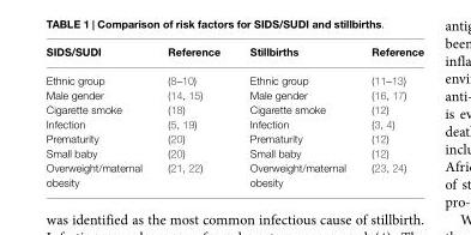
<table><thead><tr><td>SIDS/SUDI</td><td>Reference</td><td>Stillbirths</td><td>Reference</td></tr></thead><tbody><tr><td>Ethnic group</td><td>(8–10)</td><td>Ethnic group</td><td>(11–13)</td></tr><tr><td>Male gender</td><td>(14, 15)</td><td>Male gender</td><td>(16, 17)</td></tr><tr><td>Cigarette smoke</td><td>(18)</td><td>Cigarette smoke</td><td>(12)</td></tr><tr><td>Infection</td><td>(5, 19)</td><td>Infection</td><td>(3, 4)</td></tr><tr><td>Prematurity</td><td>(20)</td><td>Prematurity</td><td>(12)</td></tr><tr><td>Small baby</td><td>(20)</td><td>Small baby</td><td>(12)</td></tr><tr><td>Overweight/maternal obesity</td><td>(21, 22)</td><td>Overweight/maternal obesity</td><td>(23, 24)</td></tr></tbody></table>